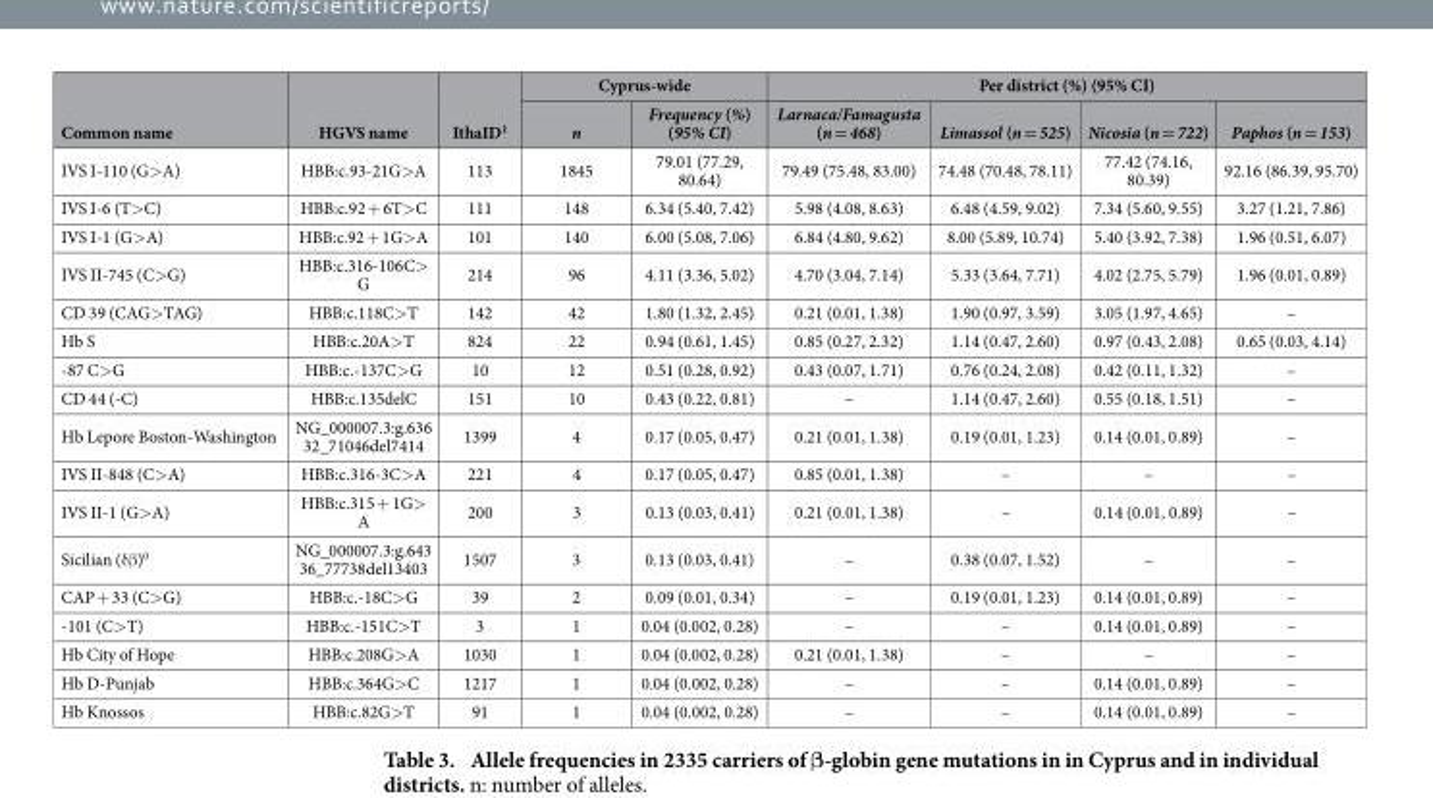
<table><thead><tr><td rowspan="2">Common name</td><td rowspan="2">HGVS name</td><td rowspan="2">IthaID<sup>1</sup></td><td colspan="2">Cyprus-wide</td><td colspan="4">Per district (%) (95% CI)</td></tr><tr><td>n</td><td>Frequency (%) (95% CI)</td><td>Larnaca/Famagusta (n = 468)</td><td>Limassol (n = 525)</td><td>Nicosia (n = 722)</td><td>Paphos (n = 153)</td></tr></thead><tbody><tr><td>IVS I-110 (G&gt; A)</td><td>HBB:c.93-21G&gt; A</td><td>113</td><td>1845</td><td>79.01 (77.29, 80.64)</td><td>79.49 (75.48, 83.00)</td><td>74.48 (70.48, 78.11)</td><td>77.42 (74.16, 80.39)</td><td>92.16 (86.39, 95.70)</td></tr><tr><td>IVS I-6 (T&gt; C)</td><td>HBB:c.92 + 6T&gt; C</td><td>111</td><td>148</td><td>6.34 (5.40, 7.42)</td><td>5.98 (4.08, 8.63)</td><td>6.48 (4.59, 9.02)</td><td>7.34 (5.60, 9.55)</td><td>3.27 (1.21, 7.86)</td></tr><tr><td>IVS I-1 (G&gt; A)</td><td>HBB:c.92 + 1G&gt; A</td><td>101</td><td>140</td><td>6.00 (5.08, 7.06)</td><td>6.84 (4.80, 9.62)</td><td>8.00 (5.89, 10.74)</td><td>5.40 (3.92, 7.38)</td><td>1.96 (0.51, 6.07)</td></tr><tr><td>IVS II-745 (C&gt; G)</td><td>HBB:c.316-106C&gt; G</td><td>214</td><td>96</td><td>4.11 (3.36, 5.02)</td><td>4.70 (3.04, 7.14)</td><td>5.33 (3.64, 7.71)</td><td>4.02 (2.75, 5.79)</td><td>1.96 (0.01, 0.89)</td></tr><tr><td>CD 39 (CAG&gt; TAG)</td><td>HBB:c.118C&gt; T</td><td>142</td><td>42</td><td>1.80 (1.32, 2.45)</td><td>0.21 (0.01, 1.38)</td><td>1.90 (0.97, 3.59)</td><td>3.05 (1.97, 4.65)</td><td>–</td></tr><tr><td>Hb S</td><td>HBB:c.20A&gt; T</td><td>824</td><td>22</td><td>0.94 (0.61, 1.45)</td><td>0.85 (0.27, 2.32)</td><td>1.14 (0.47, 2.60)</td><td>0.97 (0.43, 2.08)</td><td>0.65 (0.03, 4.14)</td></tr><tr><td>- 87 C&gt; G</td><td>HBB:c.-137C&gt; G</td><td>10</td><td>12</td><td>0.51 (0.28, 0.92)</td><td>0.43 (0.07, 1.71)</td><td>0.76 (0.24, 2.08)</td><td>0.42 (0.11, 1.32)</td><td>–</td></tr><tr><td>CD 44 (-C)</td><td>HBB:c.135delC</td><td>151</td><td>10</td><td>0.43 (0.22, 0.81)</td><td>–</td><td>1.14 (0.47, 2.60)</td><td>0.55 (0.18, 1.51)</td><td>–</td></tr><tr><td>Hb Lepore Boston-Washington</td><td>NG_000007.3:g.636 32_71046del7414</td><td>1399</td><td>4</td><td>0.17 (0.05, 0.47)</td><td>0.21 (0.01, 1.38)</td><td>0.19 (0.01, 1.23)</td><td>0.14 (0.01, 0.89)</td><td>–</td></tr><tr><td>IVS II-848 (C&gt; A)</td><td>HBB:c.316-3C&gt; A</td><td>221</td><td>4</td><td>0.17 (0.05, 0.47)</td><td>0.85 (0.01, 1.38)</td><td>–</td><td>–</td><td>–</td></tr><tr><td>IVS II-1 (G&gt; A)</td><td>HBB:c.315 + 1G&gt; A</td><td>200</td><td>3</td><td>0.13 (0.03, 0.41)</td><td>0.21 (0.01, 1.38)</td><td>–</td><td>0.14 (0.01, 0.89)</td><td>–</td></tr><tr><td>Sicilian (δ β )<sup>0</sup></td><td>NG_000007.3:g.643 36_77738del13403</td><td>1507</td><td>3</td><td>0.13 (0.03, 0.41)</td><td>–</td><td>0.38 (0.07, 1.52)</td><td>–</td><td>–</td></tr><tr><td>CAP + 33 (C&gt; G)</td><td>HBB:c.-18C&gt; G</td><td>39</td><td>2</td><td>0.09 (0.01, 0.34)</td><td>–</td><td>0.19 (0.01, 1.23)</td><td>0.14 (0.01, 0.89)</td><td>–</td></tr><tr><td>- 101 (C&gt; T)</td><td>HBB:c.-151C&gt; T</td><td>3</td><td>1</td><td>0.04 (0.002, 0.28)</td><td>–</td><td>–</td><td>0.14 (0.01, 0.89)</td><td>–</td></tr><tr><td>Hb City of Hope</td><td>HBB:c.208G&gt; A</td><td>1030</td><td>1</td><td>0.04 (0.002, 0.28)</td><td>0.21 (0.01, 1.38)</td><td>–</td><td>–</td><td>–</td></tr><tr><td>Hb D-Punjab</td><td>HBB:c.364G&gt; C</td><td>1217</td><td>1</td><td>0.04 (0.002, 0.28)</td><td>–</td><td>–</td><td>0.14 (0.01, 0.89)</td><td>–</td></tr><tr><td>Hb Knossos</td><td>HBB:c.82G&gt; T</td><td>91</td><td>1</td><td>0.04 (0.002, 0.28)</td><td>–</td><td>–</td><td>0.14 (0.01, 0.89)</td><td>–</td></tr></tbody></table>